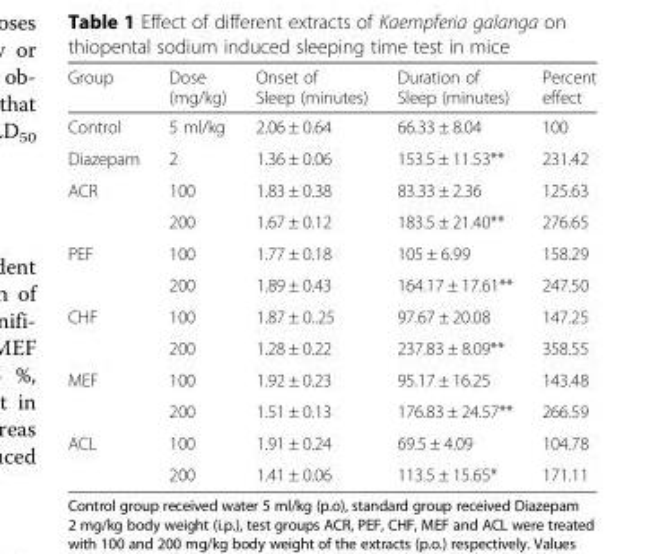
<table><thead><tr><td>Group</td><td>Dose (mg/kg)</td><td>Onset of Sleep (minutes)</td><td>Duration of Sleep (minutes)</td><td>Percent effect</td></tr></thead><tbody><tr><td>Control</td><td>5 ml/kg</td><td>2.06 ± 0.64</td><td>66.33 ± 8.04</td><td>100</td></tr><tr><td>Diazepam</td><td>2</td><td>1.36 ± 0.06</td><td>153.5 ± 11.53**</td><td>231.42</td></tr><tr><td rowspan="2">ACR</td><td>100</td><td>1.83 ± 0.38</td><td>83.33 ± 2.36</td><td>125.63</td></tr><tr><td>200</td><td>1.67 ± 0.12</td><td>183.5 ± 21.40**</td><td>276.65</td></tr><tr><td rowspan="2">PEF</td><td>100</td><td>1.77 ± 0.18</td><td>105 ± 6.99</td><td>158.29</td></tr><tr><td>200</td><td>1.89 ± 0.43</td><td>164.17 ± 17.61**</td><td>247.50</td></tr><tr><td rowspan="2">CHF</td><td>100</td><td>1.87 ± 0..25</td><td>97.67 ± 20.08</td><td>147.25</td></tr><tr><td>200</td><td>1.28 ± 0.22</td><td>237.83 ± 8.09**</td><td>358.55</td></tr><tr><td rowspan="2">MEF</td><td>100</td><td>1.92 ± 0.23</td><td>95.17 ± 16.25</td><td>143.48</td></tr><tr><td>200</td><td>1.51 ± 0.13</td><td>176.83 ± 24.57**</td><td>266.59</td></tr><tr><td rowspan="2">ACL</td><td>100</td><td>1.91 ± 0.24</td><td>69.5 ± 4.09</td><td>104.78</td></tr><tr><td>200</td><td>1.41 ± 0.06</td><td>113.5 ± 15.65*</td><td>171.11</td></tr></tbody></table>